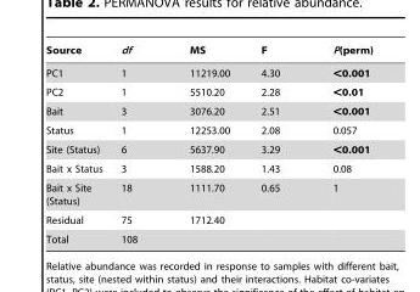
<table><thead><tr><td>Source</td><td>df</td><td>MS</td><td>F</td><td>P(perm)</td></tr></thead><tbody><tr><td>PC1</td><td>1</td><td>11219.00</td><td>4.30</td><td>&lt;0.001</td></tr><tr><td>PC2</td><td>1</td><td>5510.20</td><td>2.28</td><td>&lt;0.01</td></tr><tr><td>Bait</td><td>3</td><td>3076.20</td><td>2.51</td><td>&lt;0.001</td></tr><tr><td>Status</td><td>1</td><td>12253.00</td><td>2.08</td><td>0.057</td></tr><tr><td>Site (Status)</td><td>6</td><td>5637.90</td><td>3.29</td><td>&lt;0.001</td></tr><tr><td>Bait x Status</td><td>3</td><td>1588.20</td><td>1.43</td><td>0.08</td></tr><tr><td>Bait x Site (Status)</td><td>18</td><td>1111.70</td><td>0.65</td><td>1</td></tr><tr><td>Residual</td><td>75</td><td>1712.40</td><td></td><td></td></tr><tr><td>Total</td><td>108</td><td></td><td></td><td></td></tr></tbody></table>